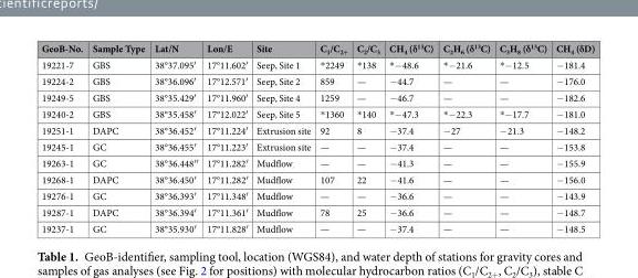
<table><thead><tr><td>GeoB-No.</td><td>Sample Type</td><td>Lat/N</td><td>Lon/E</td><td>Site</td><td>C<sub>1</sub>/C<sub>2+</sub></td><td>C<sub>2</sub>/C<sub>3</sub></td><td>CH<sub>4</sub> (δ<sup>13</sup>C)</td><td>C<sub>2</sub>H<sub>6</sub> (δ<sup>13</sup>C)</td><td>C<sub>3</sub>H<sub>8</sub> (δ<sup>13</sup>C)</td><td>CH<sub>4</sub> (δD)</td></tr></thead><tbody><tr><td>19221-7</td><td>GBS</td><td>38°37.095′</td><td>17°11.602′</td><td>Seep, Site 1</td><td>*2249</td><td>*138</td><td>*−48.6</td><td>*−21.6</td><td>*−12.5</td><td>−181.4</td></tr><tr><td>19224-2</td><td>GBS</td><td>38°36.096′</td><td>17°12.571′</td><td>Seep, Site 2</td><td>859</td><td>—</td><td>−44.7</td><td>—</td><td>—</td><td>−176.0</td></tr><tr><td>19249-5</td><td>GBS</td><td>38°35.429′</td><td>17°11.960′</td><td>Seep, Site 4</td><td>1259</td><td>—</td><td>−46.7</td><td>—</td><td>—</td><td>−182.6</td></tr><tr><td>19240-2</td><td>GBS</td><td>38°35.458′</td><td>17°12.022′</td><td>Seep, Site 5</td><td>*1360</td><td>*140</td><td>*−47.3</td><td>*−22.3</td><td>*−17.7</td><td>−181.0</td></tr><tr><td>19251-1</td><td>DAPC</td><td>38°36.452′</td><td>17°11.224′</td><td>Extrusion site</td><td>92</td><td>8</td><td>−37.4</td><td>−27</td><td>−21.3</td><td>−148.2</td></tr><tr><td>19245-1</td><td>GC</td><td>38°36.455′</td><td>17°11.223′</td><td>Extrusion site</td><td>—</td><td>—</td><td>−37.4</td><td>—</td><td>—</td><td>−153.8</td></tr><tr><td>19263-1</td><td>GC</td><td>38°36.448′′</td><td>17°11.282′</td><td>Mudflow</td><td>—</td><td>—</td><td>−41.3</td><td>—</td><td>—</td><td>−155.9</td></tr><tr><td>19268-1</td><td>DAPC</td><td>38°36.450′</td><td>17°11.282′</td><td>Mudflow</td><td>107</td><td>22</td><td>−41.6</td><td>—</td><td>—</td><td>−156.0</td></tr><tr><td>19276-1</td><td>GC</td><td>38°36.393′</td><td>17°11.348′</td><td>Mudflow</td><td>—</td><td>—</td><td>−36.6</td><td>—</td><td>—</td><td>−143.9</td></tr><tr><td>19287-1</td><td>DAPC</td><td>38°36.394′</td><td>17°11.361′</td><td>Mudflow</td><td>78</td><td>25</td><td>−36.6</td><td>—</td><td>—</td><td>−148.7</td></tr><tr><td>19237-1</td><td>GC</td><td>38°35.930′</td><td>17°11.828′</td><td>Mudflow</td><td>—</td><td>—</td><td>−37.4</td><td>—</td><td>—</td><td>−148.5</td></tr></tbody></table>